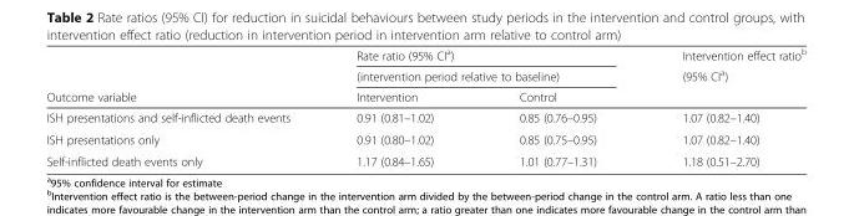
<table><thead><tr><td rowspan="3">Outcome variable</td><td rowspan="2" colspan="2">Rate ratio (95% CI<sup>a</sup>) (intervention period relative to baseline)</td><td rowspan="3">Intervention effect ratio<sup>b</sup> (95% CI<sup>a</sup>)</td></tr><tr></tr><tr><td>Intervention</td><td>Control</td></tr></thead><tbody><tr><td>ISH presentations and self-inflicted death events</td><td>0.91 (0.81–1.02)</td><td>0.85 (0.76–0.95)</td><td>1.07 (0.82–1.40)</td></tr><tr><td>ISH presentations only</td><td>0.91 (0.80–1.02)</td><td>0.85 (0.75–0.95)</td><td>1.07 (0.82–1.40)</td></tr><tr><td>Self-inflicted death events only</td><td>1.17 (0.84–1.65)</td><td>1.01 (0.77–1.31)</td><td>1.18 (0.51–2.70)</td></tr></tbody></table>